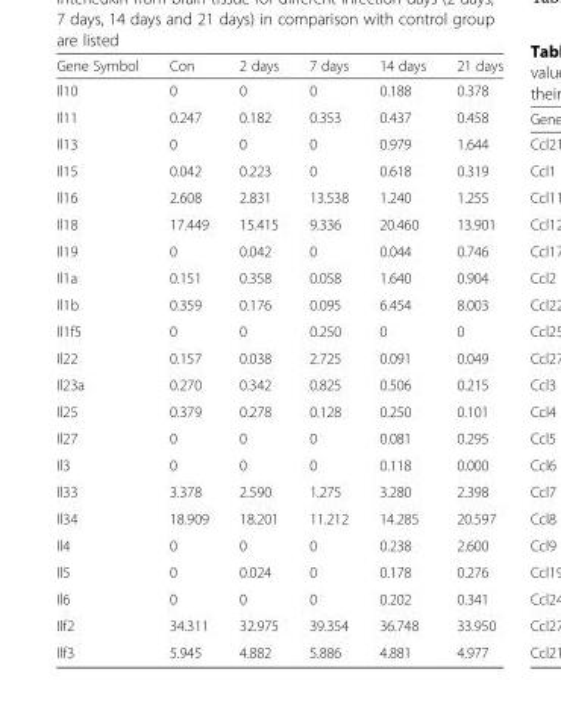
<table><thead><tr><td>Gene Symbol</td><td>Con</td><td>2 days</td><td>7 days</td><td>14 days</td><td>21 days</td></tr></thead><tbody><tr><td>Il10</td><td>0</td><td>0</td><td>0</td><td>0.188</td><td>0.378</td></tr><tr><td>Il11</td><td>0.247</td><td>0.182</td><td>0.353</td><td>0.437</td><td>0.458</td></tr><tr><td>Il13</td><td>0</td><td>0</td><td>0</td><td>0.979</td><td>1.644</td></tr><tr><td>Il15</td><td>0.042</td><td>0.223</td><td>0</td><td>0.618</td><td>0.319</td></tr><tr><td>Il16</td><td>2.608</td><td>2.831</td><td>13.538</td><td>1.240</td><td>1.255</td></tr><tr><td>Il18</td><td>17.449</td><td>15.415</td><td>9.336</td><td>20.460</td><td>13.901</td></tr><tr><td>Il19</td><td>0</td><td>0.042</td><td>0</td><td>0.044</td><td>0.746</td></tr><tr><td>Il1a</td><td>0.151</td><td>0.358</td><td>0.058</td><td>1.640</td><td>0.904</td></tr><tr><td>Il1b</td><td>0.359</td><td>0.176</td><td>0.095</td><td>6.454</td><td>8.003</td></tr><tr><td>Il1f5</td><td>0</td><td>0</td><td>0.250</td><td>0</td><td>0</td></tr><tr><td>Il22</td><td>0.157</td><td>0.038</td><td>2.725</td><td>0.091</td><td>0.049</td></tr><tr><td>Il23a</td><td>0.270</td><td>0.342</td><td>0.825</td><td>0.506</td><td>0.215</td></tr><tr><td>Il25</td><td>0.379</td><td>0.278</td><td>0.128</td><td>0.250</td><td>0.101</td></tr><tr><td>Il27</td><td>0</td><td>0</td><td>0</td><td>0.081</td><td>0.295</td></tr><tr><td>Il3</td><td>0</td><td>0</td><td>0</td><td>0.118</td><td>0.000</td></tr><tr><td>Il33</td><td>3.378</td><td>2.590</td><td>1.275</td><td>3.280</td><td>2.398</td></tr><tr><td>Il34</td><td>18.909</td><td>18.201</td><td>11.212</td><td>14.285</td><td>20.597</td></tr><tr><td>Il4</td><td>0</td><td>0</td><td>0</td><td>0.238</td><td>2.600</td></tr><tr><td>Il5</td><td>0</td><td>0.024</td><td>0</td><td>0.178</td><td>0.276</td></tr><tr><td>Il6</td><td>0</td><td>0</td><td>0</td><td>0.202</td><td>0.341</td></tr><tr><td>Ilf2</td><td>34.311</td><td>32.975</td><td>39.354</td><td>36.748</td><td>33.950</td></tr><tr><td>Ilf3</td><td>5.945</td><td>4.882</td><td>5.886</td><td>4.881</td><td>4.977</td></tr></tbody></table>